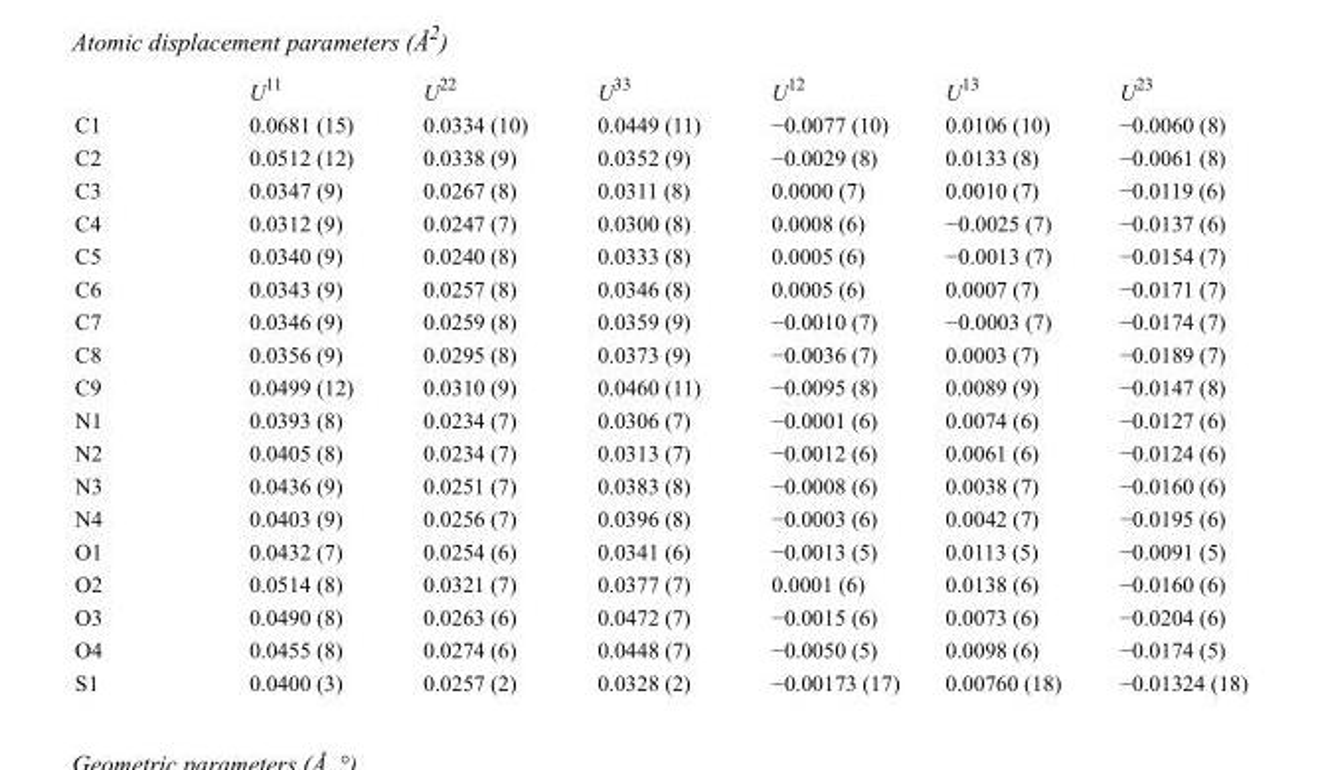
<table><thead><tr><td></td><td>U<sup>11</sup></td><td>U<sup>22</sup></td><td>U<sup>33</sup></td><td>U<sup>12</sup></td><td>U<sup>13</sup></td><td>U<sup>23</sup></td></tr></thead><tbody><tr><td>C1</td><td>0.0681 (15)</td><td>0.0334 (10)</td><td>0.0449 (11)</td><td>−0.0077 (10)</td><td>0.0106 (10)</td><td>−0.0060 (8)</td></tr><tr><td>C2</td><td>0.0512 (12)</td><td>0.0338 (9)</td><td>0.0352 (9)</td><td>−0.0029 (8)</td><td>0.0133 (8)</td><td>−0.0061 (8)</td></tr><tr><td>C3</td><td>0.0347 (9)</td><td>0.0267 (8)</td><td>0.0311 (8)</td><td>0.0000 (7)</td><td>0.0010 (7)</td><td>−0.0119 (6)</td></tr><tr><td>C4</td><td>0.0312 (9)</td><td>0.0247 (7)</td><td>0.0300 (8)</td><td>0.0008 (6)</td><td>−0.0025 (7)</td><td>−0.0137 (6)</td></tr><tr><td>C5</td><td>0.0340 (9)</td><td>0.0240 (8)</td><td>0.0333 (8)</td><td>0.0005 (6)</td><td>−0.0013 (7)</td><td>−0.0154 (7)</td></tr><tr><td>C6</td><td>0.0343 (9)</td><td>0.0257 (8)</td><td>0.0346 (8)</td><td>0.0005 (6)</td><td>0.0007 (7)</td><td>−0.0171 (7)</td></tr><tr><td>C7</td><td>0.0346 (9)</td><td>0.0259 (8)</td><td>0.0359 (9)</td><td>−0.0010 (7)</td><td>−0.0003 (7)</td><td>−0.0174 (7)</td></tr><tr><td>C8</td><td>0.0356 (9)</td><td>0.0295 (8)</td><td>0.0373 (9)</td><td>−0.0036 (7)</td><td>0.0003 (7)</td><td>−0.0189 (7)</td></tr><tr><td>C9</td><td>0.0499 (12)</td><td>0.0310 (9)</td><td>0.0460 (11)</td><td>−0.0095 (8)</td><td>0.0089 (9)</td><td>−0.0147 (8)</td></tr><tr><td>N1</td><td>0.0393 (8)</td><td>0.0234 (7)</td><td>0.0306 (7)</td><td>−0.0001 (6)</td><td>0.0074 (6)</td><td>−0.0127 (6)</td></tr><tr><td>N2</td><td>0.0405 (8)</td><td>0.0234 (7)</td><td>0.0313 (7)</td><td>−0.0012 (6)</td><td>0.0061 (6)</td><td>−0.0124 (6)</td></tr><tr><td>N3</td><td>0.0436 (9)</td><td>0.0251 (7)</td><td>0.0383 (8)</td><td>−0.0008 (6)</td><td>0.0038 (7)</td><td>−0.0160 (6)</td></tr><tr><td>N4</td><td>0.0403 (9)</td><td>0.0256 (7)</td><td>0.0396 (8)</td><td>−0.0003 (6)</td><td>0.0042 (7)</td><td>−0.0195 (6)</td></tr><tr><td>O1</td><td>0.0432 (7)</td><td>0.0254 (6)</td><td>0.0341 (6)</td><td>−0.0013 (5)</td><td>0.0113 (5)</td><td>−0.0091 (5)</td></tr><tr><td>O2</td><td>0.0514 (8)</td><td>0.0321 (7)</td><td>0.0377 (7)</td><td>0.0001 (6)</td><td>0.0138 (6)</td><td>−0.0160 (6)</td></tr><tr><td>O3</td><td>0.0490 (8)</td><td>0.0263 (6)</td><td>0.0472 (7)</td><td>−0.0015 (6)</td><td>0.0073 (6)</td><td>−0.0204 (6)</td></tr><tr><td>O4</td><td>0.0455 (8)</td><td>0.0274 (6)</td><td>0.0448 (7)</td><td>−0.0050 (5)</td><td>0.0098 (6)</td><td>−0.0174 (5)</td></tr><tr><td>S1</td><td>0.0400 (3)</td><td>0.0257 (2)</td><td>0.0328 (2)</td><td>−0.00173 (17)</td><td>0.00760 (18)</td><td>−0.01324 (18)</td></tr></tbody></table>